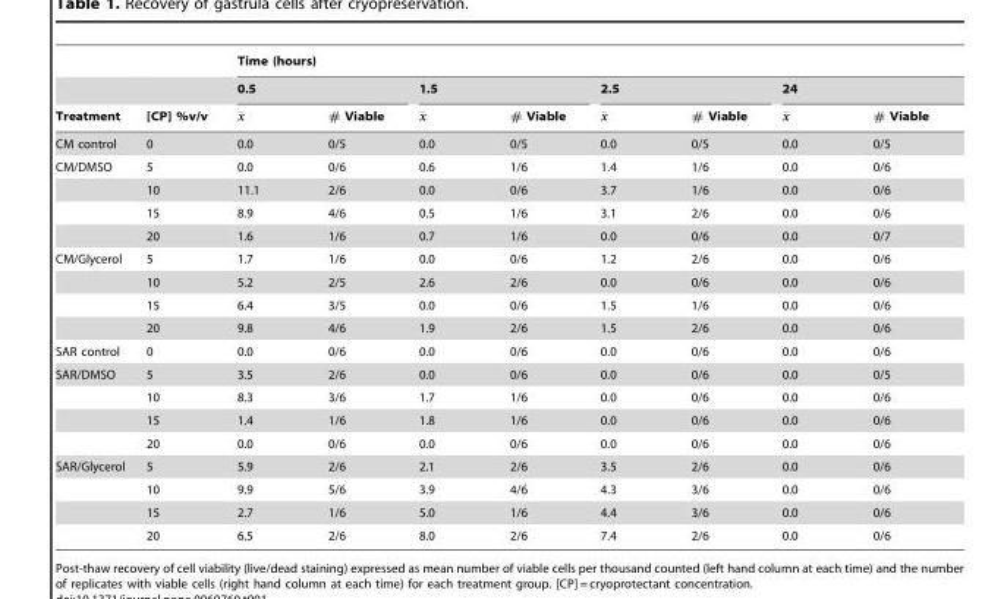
<table><thead><tr><td rowspan="3">Treatment</td><td rowspan="3">[CP] %v/v</td><td colspan="8">Time (hours)</td></tr><tr><td colspan="2">0.5</td><td colspan="2">1.5</td><td colspan="2">2.5</td><td colspan="2">24</td></tr><tr><td>�x</td><td># Viable</td><td>�x</td><td># Viable</td><td>�x</td><td># Viable</td><td>�x</td><td># Viable</td></tr></thead><tbody><tr><td>CM control</td><td>0</td><td>0.0</td><td>0/5</td><td>0.0</td><td>0/5</td><td>0.0</td><td>0/5</td><td>0.0</td><td>0/5</td></tr><tr><td rowspan="4">CM/DMSO</td><td>5</td><td>0.0</td><td>0/6</td><td>0.6</td><td>1/6</td><td>1.4</td><td>1/6</td><td>0.0</td><td>0/6</td></tr><tr><td>10</td><td>11.1</td><td>2/6</td><td>0.0</td><td>0/6</td><td>3.7</td><td>1/6</td><td>0.0</td><td>0/6</td></tr><tr><td>15</td><td>8.9</td><td>4/6</td><td>0.5</td><td>1/6</td><td>3.1</td><td>2/6</td><td>0.0</td><td>0/6</td></tr><tr><td>20</td><td>1.6</td><td>1/6</td><td>0.7</td><td>1/6</td><td>0.0</td><td>0/6</td><td>0.0</td><td>0/7</td></tr><tr><td rowspan="4">CM/Glycerol</td><td>5</td><td>1.7</td><td>1/6</td><td>0.0</td><td>0/6</td><td>1.2</td><td>2/6</td><td>0.0</td><td>0/6</td></tr><tr><td>10</td><td>5.2</td><td>2/5</td><td>2.6</td><td>2/6</td><td>0.0</td><td>0/6</td><td>0.0</td><td>0/6</td></tr><tr><td>15</td><td>6.4</td><td>3/5</td><td>0.0</td><td>0/6</td><td>1.5</td><td>1/6</td><td>0.0</td><td>0/6</td></tr><tr><td>20</td><td>9.8</td><td>4/6</td><td>1.9</td><td>2/6</td><td>1.5</td><td>2/6</td><td>0.0</td><td>0/6</td></tr><tr><td>SAR control</td><td>0</td><td>0.0</td><td>0/6</td><td>0.0</td><td>0/6</td><td>0.0</td><td>0/6</td><td>0.0</td><td>0/6</td></tr><tr><td rowspan="4">SAR/DMSO</td><td>5</td><td>3.5</td><td>2/6</td><td>0.0</td><td>0/6</td><td>0.0</td><td>0/6</td><td>0.0</td><td>0/5</td></tr><tr><td>10</td><td>8.3</td><td>3/6</td><td>1.7</td><td>1/6</td><td>0.0</td><td>0/6</td><td>0.0</td><td>0/6</td></tr><tr><td>15</td><td>1.4</td><td>1/6</td><td>1.8</td><td>1/6</td><td>0.0</td><td>0/6</td><td>0.0</td><td>0/6</td></tr><tr><td>20</td><td>0.0</td><td>0/6</td><td>0.0</td><td>0/6</td><td>0.0</td><td>0/6</td><td>0.0</td><td>0/6</td></tr><tr><td rowspan="4">SAR/Glycerol</td><td>5</td><td>5.9</td><td>2/6</td><td>2.1</td><td>2/6</td><td>3.5</td><td>2/6</td><td>0.0</td><td>0/6</td></tr><tr><td>10</td><td>9.9</td><td>5/6</td><td>3.9</td><td>4/6</td><td>4.3</td><td>3/6</td><td>0.0</td><td>0/6</td></tr><tr><td>15</td><td>2.7</td><td>1/6</td><td>5.0</td><td>1/6</td><td>4.4</td><td>3/6</td><td>0.0</td><td>0/6</td></tr><tr><td>20</td><td>6.5</td><td>2/6</td><td>8.0</td><td>2/6</td><td>7.4</td><td>2/6</td><td>0.0</td><td>0/6</td></tr></tbody></table>